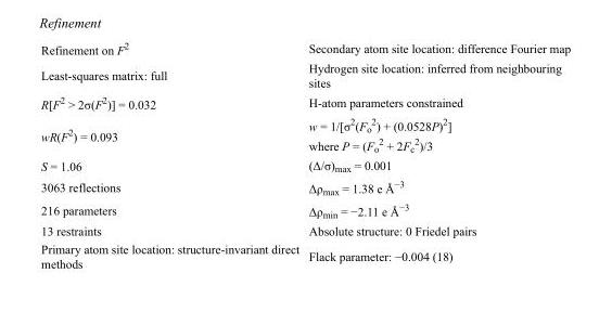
<table><tbody><tr><td>Refinement on F<sup>2</sup></td><td>Secondary atom site location: difference Fourier map</td></tr><tr><td>Least-squares matrix: full</td><td>Hydrogen site location: inferred from neighbouring sites</td></tr><tr><td>R[F<sup>2</sup> &gt; 2σ(F<sup>2</sup>)] = 0.032</td><td>H-atom parameters constrained</td></tr><tr><td>wR(F<sup>2</sup>) = 0.093</td><td>w = 1/[σ<sup>2</sup>(F<sub>o</sub> <sup>2</sup>) + (0.0528P)<sup>2</sup>] where P = (F<sub>o</sub> <sup>2</sup> + 2F<sub>c</sub> <sup>2</sup>)/3</td></tr><tr><td>S = 1.06</td><td>(Δ/σ)<sub>max</sub> = 0.001</td></tr><tr><td>3063 reflections</td><td>Δρ<sub>max</sub> = 1.38 e Å<sup>−3</sup></td></tr><tr><td>216 parameters</td><td>Δρ<sub>min</sub> = −2.11 e Å<sup>−3</sup></td></tr><tr><td>13 restraints</td><td>Absolute structure: 0 Friedel pairs</td></tr><tr><td>Primary atom site location: structure-invariant direct methods</td><td>Flack parameter: −0.004 (18)</td></tr></tbody></table>